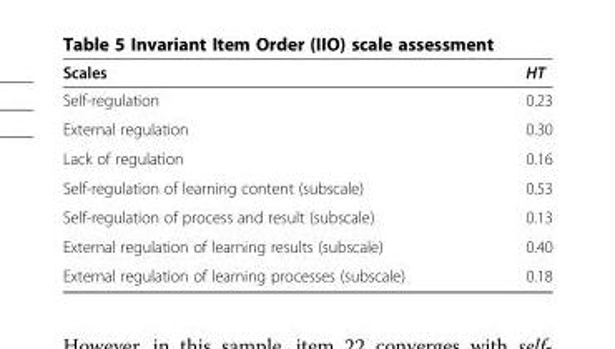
<table><thead><tr><td>Scales</td><td>HT</td></tr></thead><tbody><tr><td>Self-regulation</td><td>0.23</td></tr><tr><td>External regulation</td><td>0.30</td></tr><tr><td>Lack of regulation</td><td>0.16</td></tr><tr><td>Self-regulation of learning content (subscale)</td><td>0.53</td></tr><tr><td>Self-regulation of process and result (subscale)</td><td>0.13</td></tr><tr><td>External regulation of learning results (subscale)</td><td>0.40</td></tr><tr><td>External regulation of learning processes (subscale)</td><td>0.18</td></tr></tbody></table>